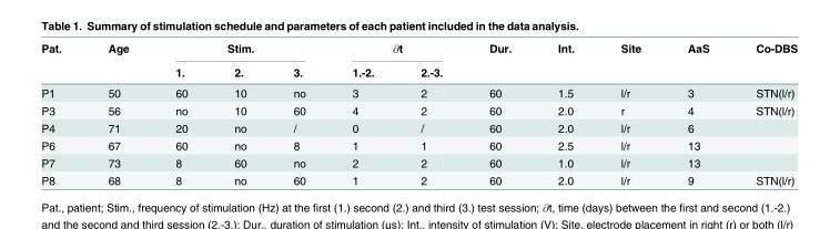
<table><thead><tr><td rowspan="2">Pat.</td><td rowspan="2">Age</td><td colspan="3">Stim.</td><td colspan="2">∂t</td><td rowspan="2">Dur.</td><td rowspan="2">Int.</td><td rowspan="2">Site</td><td rowspan="2">AaS</td><td rowspan="2">Co-DBS</td></tr><tr><td>1.</td><td>2.</td><td>3.</td><td>1.-2.</td><td>2.-3.</td></tr></thead><tbody><tr><td>P1</td><td>50</td><td>60</td><td>10</td><td>no</td><td>3</td><td>2</td><td>60</td><td>1.5</td><td>l/r</td><td>3</td><td>STN(l/r)</td></tr><tr><td>P3</td><td>56</td><td>no</td><td>10</td><td>60</td><td>4</td><td>2</td><td>60</td><td>2.0</td><td>r</td><td>4</td><td>STN(l/r)</td></tr><tr><td>P4</td><td>71</td><td>20</td><td>no</td><td>/</td><td>0</td><td>/</td><td>60</td><td>2.0</td><td>l/r</td><td>6</td><td></td></tr><tr><td>P6</td><td>67</td><td>60</td><td>no</td><td>8</td><td>1</td><td>1</td><td>60</td><td>2.5</td><td>l/r</td><td>13</td><td></td></tr><tr><td>P7</td><td>73</td><td>8</td><td>60</td><td>no</td><td>2</td><td>2</td><td>60</td><td>1.0</td><td>l/r</td><td>13</td><td></td></tr><tr><td>P8</td><td>68</td><td>8</td><td>no</td><td>60</td><td>1</td><td>2</td><td>60</td><td>2.0</td><td>l/r</td><td>9</td><td>STN(l/r)</td></tr></tbody></table>